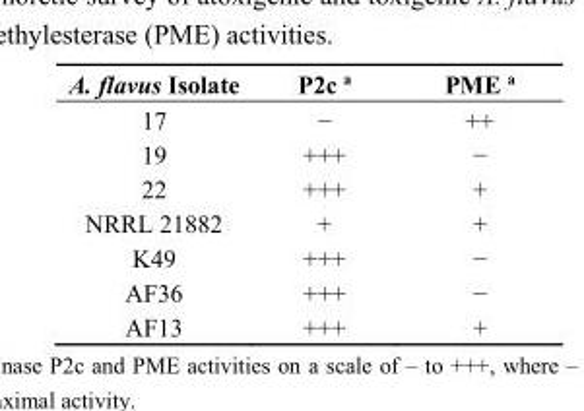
<table><thead><tr><td>A. flavus Isolate</td><td>P2c <sup>a</sup></td><td>PME <sup>a</sup></td></tr></thead><tbody><tr><td>17</td><td>−</td><td>++</td></tr><tr><td>19</td><td>+++</td><td>−</td></tr><tr><td>22</td><td>+++</td><td>+</td></tr><tr><td>NRRL 21882</td><td>+</td><td>+</td></tr><tr><td>K49</td><td>+++</td><td>−</td></tr><tr><td>AF36</td><td>+++</td><td>−</td></tr><tr><td>AF13</td><td>+++</td><td>+</td></tr></tbody></table>